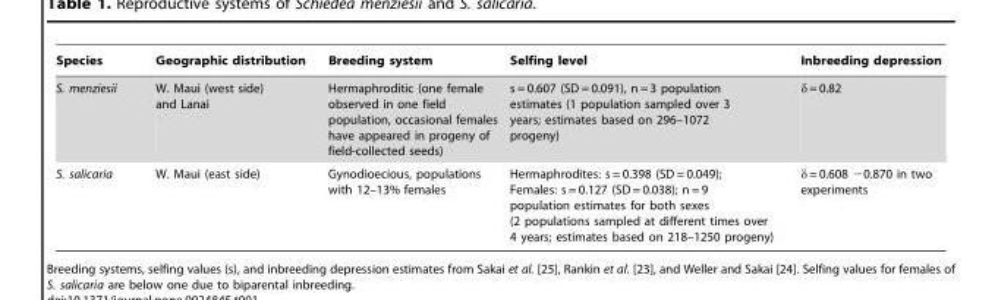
<table><thead><tr><td>Species</td><td>Geographic distribution</td><td>Breeding system</td><td>Selfing level</td><td>Inbreeding depression</td></tr></thead><tbody><tr><td>S. menziesii</td><td>W. Maui (west side) and Lanai</td><td>Hermaphroditic (one female observed in one field population, occasional females have appeared in progeny of field-collected seeds)</td><td>s = 0.607 (SD = 0.091), n = 3 population estimates (1 population sampled over 3 years; estimates based on 296–1072 progeny)</td><td>δ = 0.82</td></tr><tr><td>S. salicaria</td><td>W. Maui (east side)</td><td>Gynodioecious, populations with 12–13% females</td><td>Hermaphrodites: s = 0.398 (SD = 0.049); Females: s = 0.127 (SD = 0.038); n = 9 population estimates for both sexes (2 populations sampled at different times over 4 years; estimates based on 218–1250 progeny)</td><td>δ = 0.608 −0.870 in two experiments</td></tr></tbody></table>